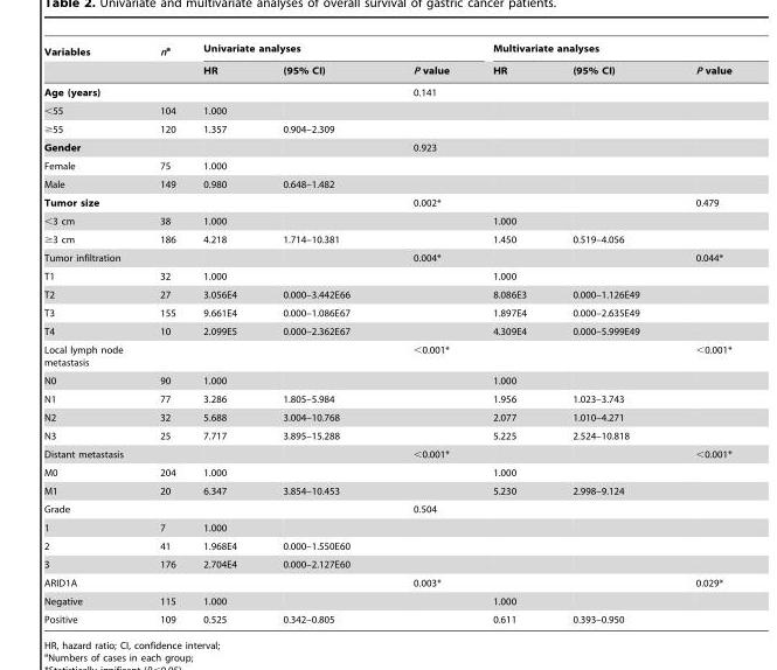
<table><thead><tr><td rowspan="2">Variables</td><td rowspan="2">na</td><td colspan="3">Univariate analyses</td><td colspan="3">Multivariate analyses</td></tr><tr><td>HR</td><td>(95% CI)</td><td>P value</td><td>HR</td><td>(95% CI)</td><td>P value</td></tr></thead><tbody><tr><td>Age (years)</td><td></td><td></td><td></td><td>0.141</td><td></td><td></td><td></td></tr><tr><td>&lt;55</td><td>104</td><td>1.000</td><td></td><td></td><td></td><td></td><td></td></tr><tr><td>≥55</td><td>120</td><td>1.357</td><td>0.904–2.309</td><td></td><td></td><td></td><td></td></tr><tr><td>Gender</td><td></td><td></td><td></td><td>0.923</td><td></td><td></td><td></td></tr><tr><td>Female</td><td>75</td><td>1.000</td><td></td><td></td><td></td><td></td><td></td></tr><tr><td>Male</td><td>149</td><td>0.980</td><td>0.648–1.482</td><td></td><td></td><td></td><td></td></tr><tr><td>Tumor size</td><td></td><td></td><td></td><td>0.002*</td><td></td><td></td><td>0.479</td></tr><tr><td>&lt;3 cm</td><td>38</td><td>1.000</td><td></td><td></td><td>1.000</td><td></td><td></td></tr><tr><td>≥3 cm</td><td>186</td><td>4.218</td><td>1.714–10.381</td><td></td><td>1.450</td><td>0.519–4.056</td><td></td></tr><tr><td>Tumor infiltration</td><td></td><td></td><td></td><td>0.004*</td><td></td><td></td><td>0.044*</td></tr><tr><td>T1</td><td>32</td><td>1.000</td><td></td><td></td><td>1.000</td><td></td><td></td></tr><tr><td>T2</td><td>27</td><td>3.056E4</td><td>0.000–3.442E66</td><td></td><td>8.086E3</td><td>0.000–1.126E49</td><td></td></tr><tr><td>T3</td><td>155</td><td>9.661E4</td><td>0.000–1.086E67</td><td></td><td>1.897E4</td><td>0.000–2.635E49</td><td></td></tr><tr><td>T4</td><td>10</td><td>2.099E5</td><td>0.000–2.362E67</td><td></td><td>4.309E4</td><td>0.000–5.999E49</td><td></td></tr><tr><td>Local lymph node metastasis</td><td></td><td></td><td></td><td>&lt;0.001*</td><td></td><td></td><td>&lt;0.001*</td></tr><tr><td>N0</td><td>90</td><td>1.000</td><td></td><td></td><td>1.000</td><td></td><td></td></tr><tr><td>N1</td><td>77</td><td>3.286</td><td>1.805–5.984</td><td></td><td>1.956</td><td>1.023–3.743</td><td></td></tr><tr><td>N2</td><td>32</td><td>5.688</td><td>3.004–10.768</td><td></td><td>2.077</td><td>1.010–4.271</td><td></td></tr><tr><td>N3</td><td>25</td><td>7.717</td><td>3.895–15.288</td><td></td><td>5.225</td><td>2.524–10.818</td><td></td></tr><tr><td>Distant metastasis</td><td></td><td></td><td></td><td>&lt;0.001*</td><td></td><td></td><td>&lt;0.001*</td></tr><tr><td>M0</td><td>204</td><td>1.000</td><td></td><td></td><td>1.000</td><td></td><td></td></tr><tr><td>M1</td><td>20</td><td>6.347</td><td>3.854–10.453</td><td></td><td>5.230</td><td>2.998–9.124</td><td></td></tr><tr><td>Grade</td><td></td><td></td><td></td><td>0.504</td><td></td><td></td><td></td></tr><tr><td>1</td><td>7</td><td>1.000</td><td></td><td></td><td></td><td></td><td></td></tr><tr><td>2</td><td>41</td><td>1.968E4</td><td>0.000–1.550E60</td><td></td><td></td><td></td><td></td></tr><tr><td>3</td><td>176</td><td>2.704E4</td><td>0.000–2.127E60</td><td></td><td></td><td></td><td></td></tr><tr><td>ARID1A</td><td></td><td></td><td></td><td>0.003*</td><td></td><td></td><td>0.029*</td></tr><tr><td>Negative</td><td>115</td><td>1.000</td><td></td><td></td><td>1.000</td><td></td><td></td></tr><tr><td>Positive</td><td>109</td><td>0.525</td><td>0.342–0.805</td><td></td><td>0.611</td><td>0.393–0.950</td><td></td></tr></tbody></table>